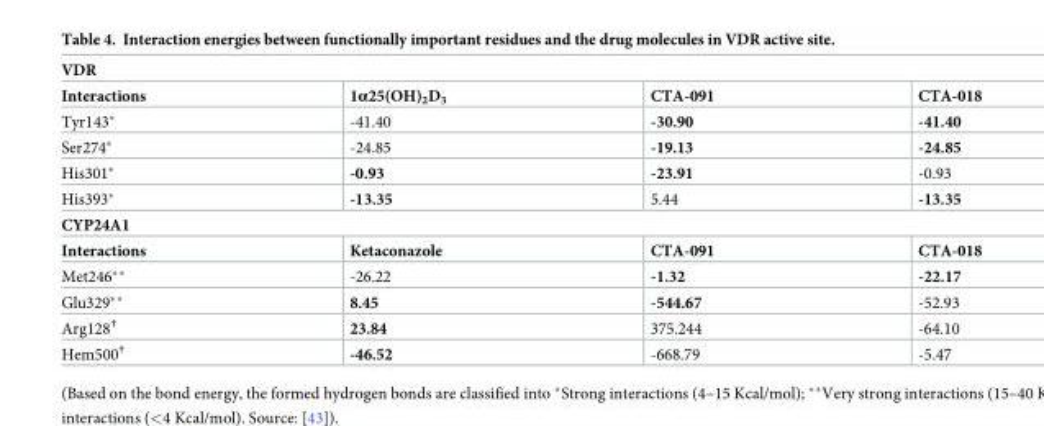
<table><tbody><tr><td colspan="4">VDR</td></tr><tr><td>Interactions</td><td>1α25(OH)<sub>2</sub>D<sub>3</sub></td><td>CTA-091</td><td>CTA-018</td></tr><tr><td>Tyr143*</td><td>-41.40</td><td>-30.90</td><td>-41.40</td></tr><tr><td>Ser274*</td><td>-24.85</td><td>-19.13</td><td>-24.85</td></tr><tr><td>His301*</td><td>-0.93</td><td>-23.91</td><td>-0.93</td></tr><tr><td>His393*</td><td>-13.35</td><td>5.44</td><td>-13.35</td></tr><tr><td colspan="4">CYP24A1</td></tr><tr><td>Interactions</td><td>Ketaconazole</td><td>CTA-091</td><td>CTA-018</td></tr><tr><td>Met246**</td><td>-26.22</td><td>-1.32</td><td>-22.17</td></tr><tr><td>Glu329**</td><td>8.45</td><td>-544.67</td><td>-52.93</td></tr><tr><td>Arg128<sup>†</sup></td><td>23.84</td><td>375.244</td><td>-64.10</td></tr><tr><td>Hem500<sup>†</sup></td><td>-46.52</td><td>-668.79</td><td>-5.47</td></tr></tbody></table>